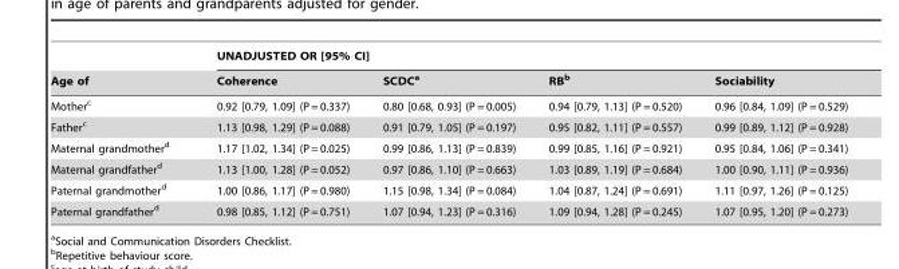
<table><thead><tr><td rowspan="2">Age of</td><td colspan="4">UNADJUSTED OR [95% CI]</td></tr><tr><td>Coherence</td><td>SCDC<sup>a</sup></td><td>RB<sup>b</sup></td><td>Sociability</td></tr></thead><tbody><tr><td>Mother<sup>c</sup></td><td>0.92 [0.79, 1.09] (P = 0.337)</td><td>0.80 [0.68, 0.93] (P = 0.005)</td><td>0.94 [0.79, 1.13] (P = 0.520)</td><td>0.96 [0.84, 1.09] (P = 0.529)</td></tr><tr><td>Father<sup>c</sup></td><td>1.13 [0.98, 1.29] (P = 0.088)</td><td>0.91 [0.79, 1.05] (P = 0.197)</td><td>0.95 [0.82, 1.11] (P = 0.557)</td><td>0.99 [0.89, 1.12] (P = 0.928)</td></tr><tr><td>Maternal grandmother<sup>d</sup></td><td>1.17 [1.02, 1.34] (P = 0.025)</td><td>0.99 [0.86, 1.13] (P = 0.839)</td><td>0.99 [0.85, 1.16] (P = 0.921)</td><td>0.95 [0.84, 1.06] (P = 0.341)</td></tr><tr><td>Maternal grandfather<sup>d</sup></td><td>1.13 [1.00, 1.28] (P = 0.052)</td><td>0.97 [0.86, 1.10] (P = 0.663)</td><td>1.03 [0.89, 1.19] (P = 0.684)</td><td>1.00 [0.90, 1.11] (P = 0.936)</td></tr><tr><td>Paternal grandmother<sup>d</sup></td><td>1.00 [0.86, 1.17] (P = 0.980)</td><td>1.15 [0.98, 1.34] (P = 0.084)</td><td>1.04 [0.87, 1.24] (P = 0.691)</td><td>1.11 [0.97, 1.26] (P = 0.125)</td></tr><tr><td>Paternal grandfather<sup>d</sup></td><td>0.98 [0.85, 1.12] (P = 0.751)</td><td>1.07 [0.94, 1.23] (P = 0.316)</td><td>1.09 [0.94, 1.28] (P = 0.245)</td><td>1.07 [0.95, 1.20] (P = 0.273)</td></tr></tbody></table>